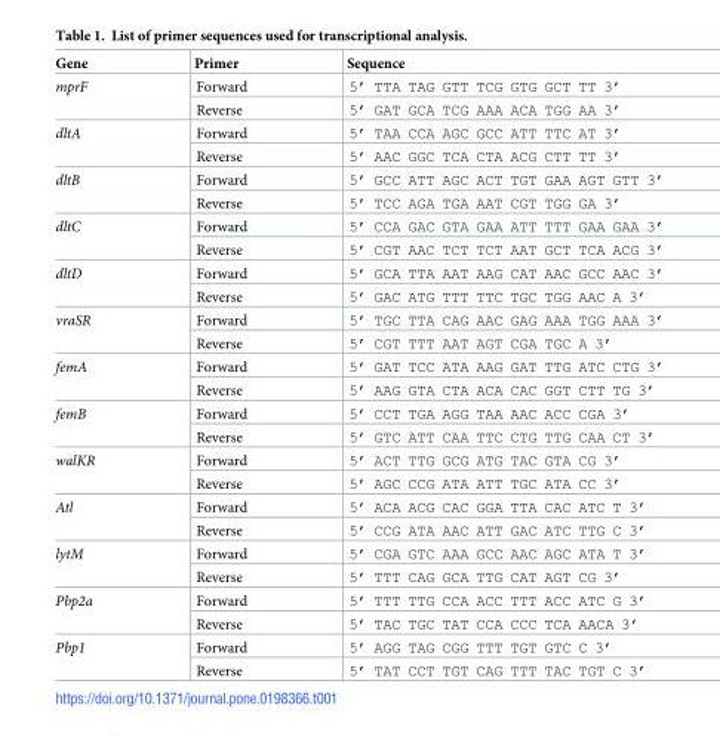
<table><thead><tr><td>Gene</td><td>Primer</td><td>Sequence</td></tr></thead><tbody><tr><td rowspan="2">mprF</td><td>Forward</td><td>5’ TTA TAG GTT TCG GTG GCT TT 3’</td></tr><tr><td>Reverse</td><td>5’ GAT GCA TCG AAA ACA TGG AA 3’</td></tr><tr><td rowspan="2">dltA</td><td>Forward</td><td>5’ TAA CCA AGC GCC ATT TTC AT 3’</td></tr><tr><td>Reverse</td><td>5’ AAC GGC TCA CTA ACG CTT TT 3’</td></tr><tr><td rowspan="2">dltB</td><td>Forward</td><td>5’ GCC ATT AGC ACT TGT GAA AGT GTT 3’</td></tr><tr><td>Reverse</td><td>5’ TCC AGA TGA AAT CGT TGG GA 3’</td></tr><tr><td rowspan="2">dltC</td><td>Forward</td><td>5’ CCA GAC GTA GAA ATT TTT GAA GAA 3’</td></tr><tr><td>Reverse</td><td>5’ CGT AAC TCT TCT AAT GCT TCA ACG 3’</td></tr><tr><td rowspan="2">dltD</td><td>Forward</td><td>5’ GCA TTA AAT AAG CAT AAC GCC AAC 3’</td></tr><tr><td>Reverse</td><td>5’ GAC ATG TTT TTC TGC TGG AAC A 3’</td></tr><tr><td rowspan="2">vraSR</td><td>Forward</td><td>5’ TGC TTA CAG AAC GAG AAA TGG AAA 3’</td></tr><tr><td>Reverse</td><td>5’ CGT TTT AAT AGT CGA TGC A 3’</td></tr><tr><td rowspan="2">femA</td><td>Forward</td><td>5’ GAT TCC ATA AAG GAT TTG ATC CTG 3’</td></tr><tr><td>Reverse</td><td>5’ AAG GTA CTA ACA CAC GGT CTT TG 3’</td></tr><tr><td rowspan="2">femB</td><td>Forward</td><td>5’ CCT TGA AGG TAA AAC ACC CGA 3’</td></tr><tr><td>Reverse</td><td>5’ GTC ATT CAA TTC CTG TTG CAA CT 3’</td></tr><tr><td rowspan="2">walKR</td><td>Forward</td><td>5’ ACT TTG GCG ATG TAC GTA CG 3’</td></tr><tr><td>Reverse</td><td>5’ AGC CCG ATA ATT TGC ATA CC 3’</td></tr><tr><td rowspan="2">Atl</td><td>Forward</td><td>5’ ACA ACG CAC GGA TTA CAC ATC T 3’</td></tr><tr><td>Reverse</td><td>5’ CCG ATA AAC ATT GAC ATC TTG C 3’</td></tr><tr><td rowspan="2">lytM</td><td>Forward</td><td>5’ CGA GTC AAA GCC AAC AGC ATA T 3’</td></tr><tr><td>Reverse</td><td>5’ TTT CAG GCA TTG CAT AGT CG 3’</td></tr><tr><td rowspan="2">Pbp2a</td><td>Forward</td><td>5’ TTT TTG CCA ACC TTT ACC ATC G 3’</td></tr><tr><td>Reverse</td><td>5’ TAC TGC TAT CCA CCC TCA AACA 3’</td></tr><tr><td rowspan="2">Pbp1</td><td>Forward</td><td>5’ AGG TAG CGG TTT TGT GTC C 3’</td></tr><tr><td>Reverse</td><td>5’ TAT CCT TGT CAG TTT TAC TGT C 3’</td></tr></tbody></table>